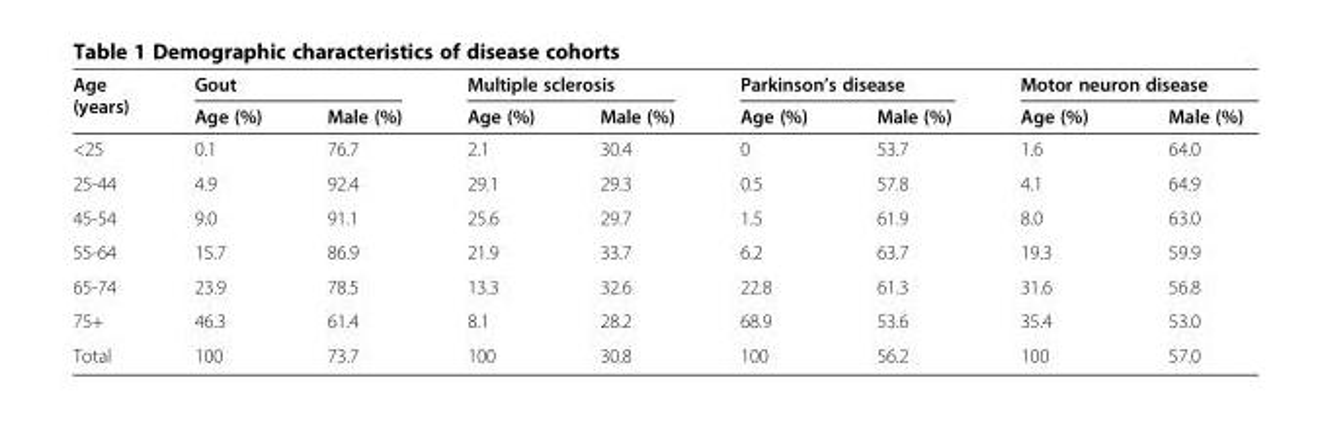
<table><thead><tr><td rowspan="2">Age (years)</td><td colspan="2">Gout</td><td colspan="2">Multiple sclerosis</td><td colspan="2">Parkinson’s disease</td><td colspan="2">Motor neuron disease</td></tr><tr><td>Age (%)</td><td>Male (%)</td><td>Age (%)</td><td>Male (%)</td><td>Age (%)</td><td>Male (%)</td><td>Age (%)</td><td>Male (%)</td></tr></thead><tbody><tr><td>&lt;25</td><td>0.1</td><td>76.7</td><td>2.1</td><td>30.4</td><td>0</td><td>53.7</td><td>1.6</td><td>64.0</td></tr><tr><td>25-44</td><td>4.9</td><td>92.4</td><td>29.1</td><td>29.3</td><td>0.5</td><td>57.8</td><td>4.1</td><td>64.9</td></tr><tr><td>45-54</td><td>9.0</td><td>91.1</td><td>25.6</td><td>29.7</td><td>1.5</td><td>61.9</td><td>8.0</td><td>63.0</td></tr><tr><td>55-64</td><td>15.7</td><td>86.9</td><td>21.9</td><td>33.7</td><td>6.2</td><td>63.7</td><td>19.3</td><td>59.9</td></tr><tr><td>65-74</td><td>23.9</td><td>78.5</td><td>13.3</td><td>32.6</td><td>22.8</td><td>61.3</td><td>31.6</td><td>56.8</td></tr><tr><td>75+</td><td>46.3</td><td>61.4</td><td>8.1</td><td>28.2</td><td>68.9</td><td>53.6</td><td>35.4</td><td>53.0</td></tr><tr><td>Total</td><td>100</td><td>73.7</td><td>100</td><td>30.8</td><td>100</td><td>56.2</td><td>100</td><td>57.0</td></tr></tbody></table>